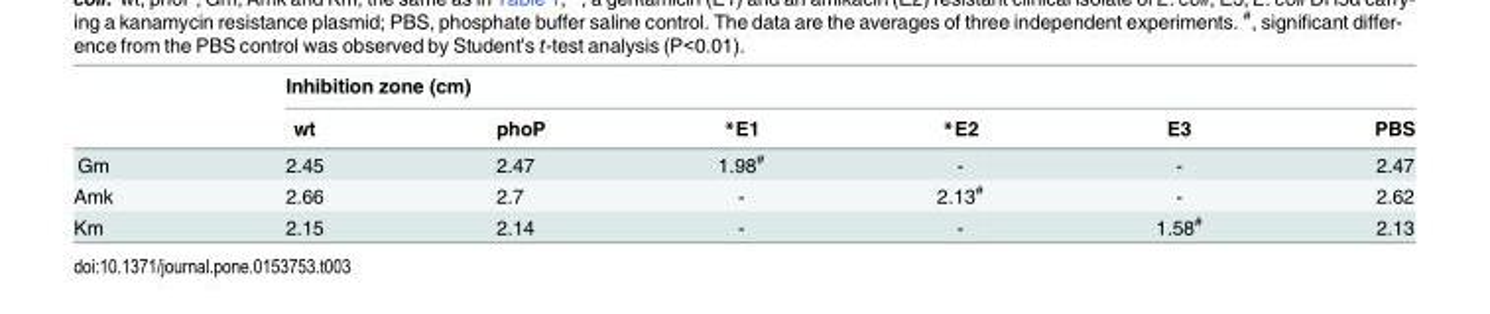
<table><thead><tr><td rowspan="2"></td><td colspan="6">Inhibition zone (cm)</td></tr><tr><td>wt</td><td>phoP</td><td>*E1</td><td>*E2</td><td>E3</td><td>PBS</td></tr></thead><tbody><tr><td>Gm</td><td>2.45</td><td>2.47</td><td>1.98<sup>#</sup></td><td>-</td><td>-</td><td>2.47</td></tr><tr><td>Amk</td><td>2.66</td><td>2.7</td><td>-</td><td>2.13<sup>#</sup></td><td>-</td><td>2.62</td></tr><tr><td>Km</td><td>2.15</td><td>2.14</td><td>-</td><td>-</td><td>1.58<sup>#</sup></td><td>2.13</td></tr></tbody></table>